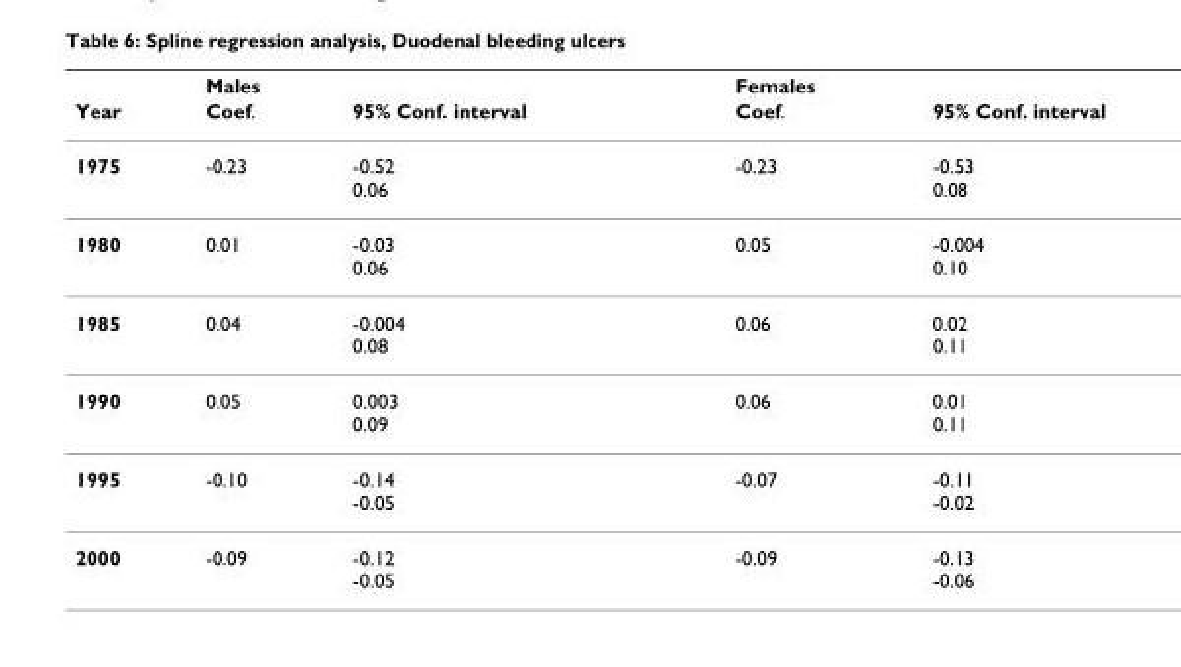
<table><thead><tr><td rowspan="2">Year</td><td rowspan="2">Males Coef.</td><td rowspan="2">95% Conf. interval</td><td rowspan="2">Females Coef.</td><td rowspan="2">95% Conf. interval</td></tr><tr></tr></thead><tbody><tr><td>1975</td><td>-0.23</td><td>-0.52 0.06</td><td>-0.23</td><td>-0.53 0.08</td></tr><tr><td>1980</td><td>0.01</td><td>-0.03 0.06</td><td>0.05</td><td>-0.004 0.10</td></tr><tr><td>1985</td><td>0.04</td><td>-0.004 0.08</td><td>0.06</td><td>0.02 0.11</td></tr><tr><td>1990</td><td>0.05</td><td>0.003 0.09</td><td>0.06</td><td>0.01 0.11</td></tr><tr><td>1995</td><td>-0.10</td><td>-0.14 -0.05</td><td>-0.07</td><td>-0.11 -0.02</td></tr><tr><td>2000</td><td>-0.09</td><td>-0.12 -0.05</td><td>-0.09</td><td>-0.13 -0.06</td></tr></tbody></table>